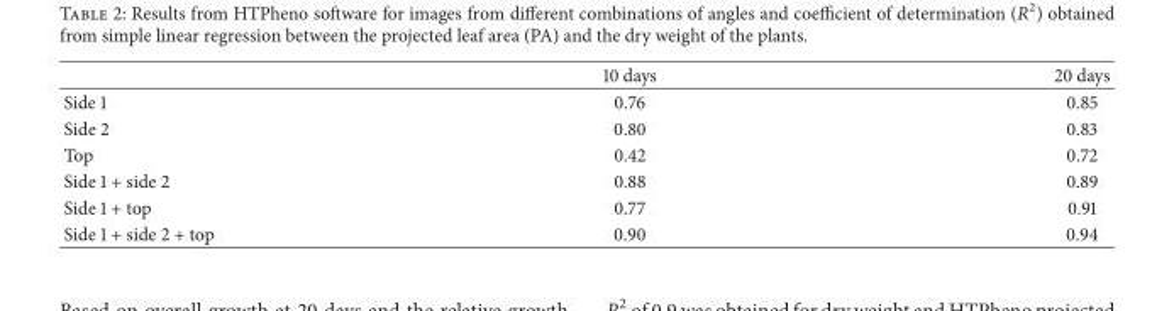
<table><thead><tr><td></td><td>10 days</td><td>20 days</td></tr></thead><tbody><tr><td>Side 1</td><td>0.76</td><td>0.85</td></tr><tr><td>Side 2</td><td>0.80</td><td>0.83</td></tr><tr><td>Top</td><td>0.42</td><td>0.72</td></tr><tr><td>Side 1 + side 2</td><td>0.88</td><td>0.89</td></tr><tr><td>Side 1 + top</td><td>0.77</td><td>0.91</td></tr><tr><td>Side 1 + side 2 + top</td><td>0.90</td><td>0.94</td></tr></tbody></table>